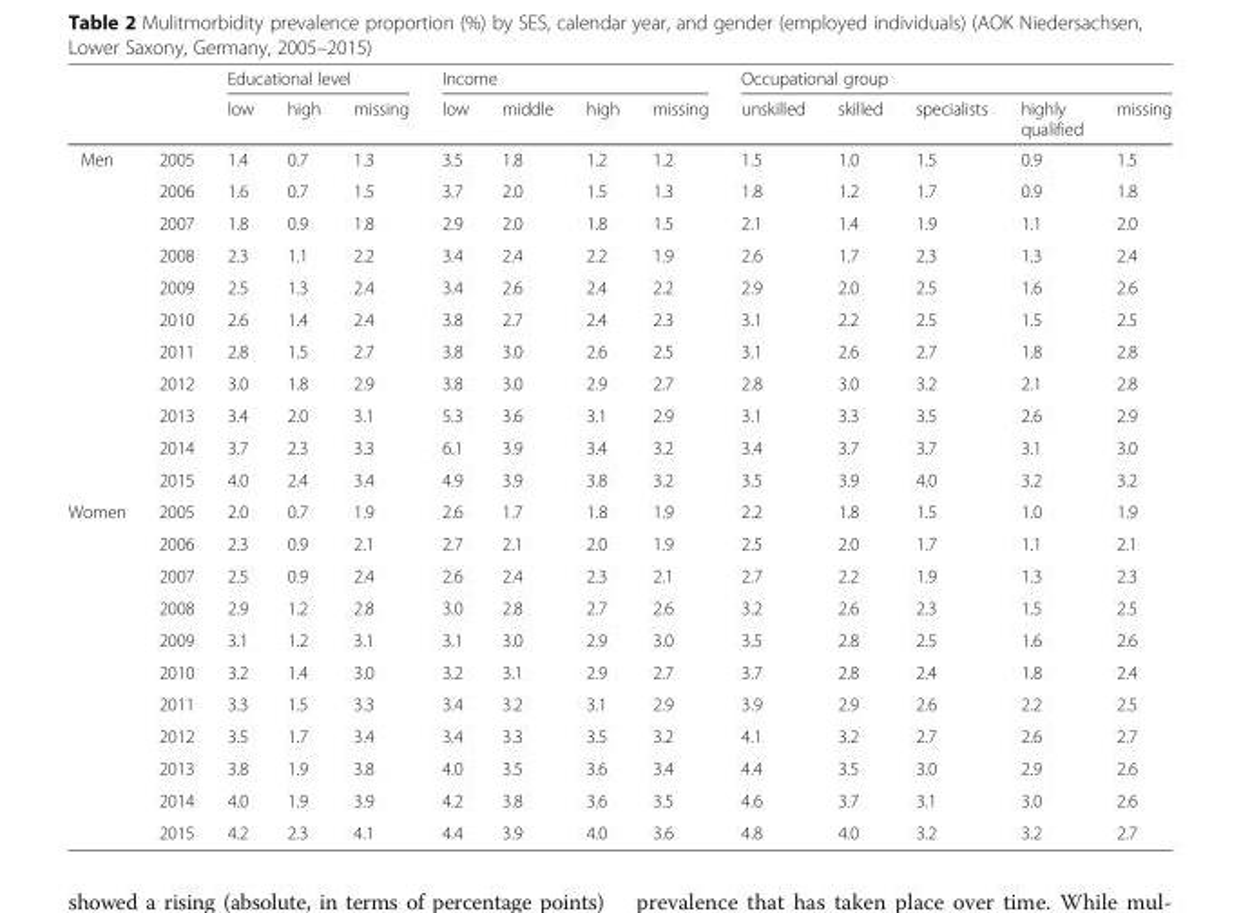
<table><thead><tr><td rowspan="2"></td><td rowspan="2"></td><td colspan="3">Educational level</td><td colspan="4">Income</td><td colspan="5">Occupational group</td></tr><tr><td>low</td><td>high</td><td>missing</td><td>low</td><td>middle</td><td>high</td><td>missing</td><td>unskilled</td><td>skilled</td><td>specialists</td><td>highly qualified</td><td>missing</td></tr></thead><tbody><tr><td rowspan="11">Men</td><td>2005</td><td>1.4</td><td>0.7</td><td>1.3</td><td>3.5</td><td>1.8</td><td>1.2</td><td>1.2</td><td>1.5</td><td>1.0</td><td>1.5</td><td>0.9</td><td>1.5</td></tr><tr><td>2006</td><td>1.6</td><td>0.7</td><td>1.5</td><td>3.7</td><td>2.0</td><td>1.5</td><td>1.3</td><td>1.8</td><td>1.2</td><td>1.7</td><td>0.9</td><td>1.8</td></tr><tr><td>2007</td><td>1.8</td><td>0.9</td><td>1.8</td><td>2.9</td><td>2.0</td><td>1.8</td><td>1.5</td><td>2.1</td><td>1.4</td><td>1.9</td><td>1.1</td><td>2.0</td></tr><tr><td>2008</td><td>2.3</td><td>1.1</td><td>2.2</td><td>3.4</td><td>2.4</td><td>2.2</td><td>1.9</td><td>2.6</td><td>1.7</td><td>2.3</td><td>1.3</td><td>2.4</td></tr><tr><td>2009</td><td>2.5</td><td>1.3</td><td>2.4</td><td>3.4</td><td>2.6</td><td>2.4</td><td>2.2</td><td>2.9</td><td>2.0</td><td>2.5</td><td>1.6</td><td>2.6</td></tr><tr><td>2010</td><td>2.6</td><td>1.4</td><td>2.4</td><td>3.8</td><td>2.7</td><td>2.4</td><td>2.3</td><td>3.1</td><td>2.2</td><td>2.5</td><td>1.5</td><td>2.5</td></tr><tr><td>2011</td><td>2.8</td><td>1.5</td><td>2.7</td><td>3.8</td><td>3.0</td><td>2.6</td><td>2.5</td><td>3.1</td><td>2.6</td><td>2.7</td><td>1.8</td><td>2.8</td></tr><tr><td>2012</td><td>3.0</td><td>1.8</td><td>2.9</td><td>3.8</td><td>3.0</td><td>2.9</td><td>2.7</td><td>2.8</td><td>3.0</td><td>3.2</td><td>2.1</td><td>2.8</td></tr><tr><td>2013</td><td>3.4</td><td>2.0</td><td>3.1</td><td>5.3</td><td>3.6</td><td>3.1</td><td>2.9</td><td>3.1</td><td>3.3</td><td>3.5</td><td>2.6</td><td>2.9</td></tr><tr><td>2014</td><td>3.7</td><td>2.3</td><td>3.3</td><td>6.1</td><td>3.9</td><td>3.4</td><td>3.2</td><td>3.4</td><td>3.7</td><td>3.7</td><td>3.1</td><td>3.0</td></tr><tr><td>2015</td><td>4.0</td><td>2.4</td><td>3.4</td><td>4.9</td><td>3.9</td><td>3.8</td><td>3.2</td><td>3.5</td><td>3.9</td><td>4.0</td><td>3.2</td><td>3.2</td></tr><tr><td rowspan="11">Women</td><td>2005</td><td>2.0</td><td>0.7</td><td>1.9</td><td>2.6</td><td>1.7</td><td>1.8</td><td>1.9</td><td>2.2</td><td>1.8</td><td>1.5</td><td>1.0</td><td>1.9</td></tr><tr><td>2006</td><td>2.3</td><td>0.9</td><td>2.1</td><td>2.7</td><td>2.1</td><td>2.0</td><td>1.9</td><td>2.5</td><td>2.0</td><td>1.7</td><td>1.1</td><td>2.1</td></tr><tr><td>2007</td><td>2.5</td><td>0.9</td><td>2.4</td><td>2.6</td><td>2.4</td><td>2.3</td><td>2.1</td><td>2.7</td><td>2.2</td><td>1.9</td><td>1.3</td><td>2.3</td></tr><tr><td>2008</td><td>2.9</td><td>1.2</td><td>2.8</td><td>3.0</td><td>2.8</td><td>2.7</td><td>2.6</td><td>3.2</td><td>2.6</td><td>2.3</td><td>1.5</td><td>2.5</td></tr><tr><td>2009</td><td>3.1</td><td>1.2</td><td>3.1</td><td>3.1</td><td>3.0</td><td>2.9</td><td>3.0</td><td>3.5</td><td>2.8</td><td>2.5</td><td>1.6</td><td>2.6</td></tr><tr><td>2010</td><td>3.2</td><td>1.4</td><td>3.0</td><td>3.2</td><td>3.1</td><td>2.9</td><td>2.7</td><td>3.7</td><td>2.8</td><td>2.4</td><td>1.8</td><td>2.4</td></tr><tr><td>2011</td><td>3.3</td><td>1.5</td><td>3.3</td><td>3.4</td><td>3.2</td><td>3.1</td><td>2.9</td><td>3.9</td><td>2.9</td><td>2.6</td><td>2.2</td><td>2.5</td></tr><tr><td>2012</td><td>3.5</td><td>1.7</td><td>3.4</td><td>3.4</td><td>3.3</td><td>3.5</td><td>3.2</td><td>4.1</td><td>3.2</td><td>2.7</td><td>2.6</td><td>2.7</td></tr><tr><td>2013</td><td>3.8</td><td>1.9</td><td>3.8</td><td>4.0</td><td>3.5</td><td>3.6</td><td>3.4</td><td>4.4</td><td>3.5</td><td>3.0</td><td>2.9</td><td>2.6</td></tr><tr><td>2014</td><td>4.0</td><td>1.9</td><td>3.9</td><td>4.2</td><td>3.8</td><td>3.6</td><td>3.5</td><td>4.6</td><td>3.7</td><td>3.1</td><td>3.0</td><td>2.6</td></tr><tr><td>2015</td><td>4.2</td><td>2.3</td><td>4.1</td><td>4.4</td><td>3.9</td><td>4.0</td><td>3.6</td><td>4.8</td><td>4.0</td><td>3.2</td><td>3.2</td><td>2.7</td></tr></tbody></table>